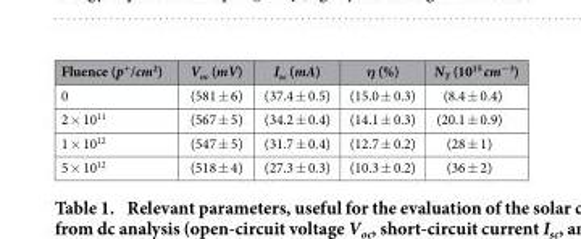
<table><thead><tr><td>Fluence (p<sup>+</sup>/cm<sup>2</sup>)</td><td>V<sub>oc</sub> (mV)</td><td>I<sub>sc</sub> (mA)</td><td>η (%)</td><td>N<sub>T</sub> (10<sup>15</sup> cm<sup>−3</sup>)</td></tr></thead><tbody><tr><td>0</td><td>(581 ± 6)</td><td>(37.4 ± 0.5)</td><td>(15.0 ± 0.3)</td><td>(8.4 ± 0.4)</td></tr><tr><td>2 × 10<sup>11</sup></td><td>(567 ± 5)</td><td>(34.2 ± 0.4)</td><td>(14.1 ± 0.3)</td><td>(20.1 ± 0.9)</td></tr><tr><td>1 × 10<sup>12</sup></td><td>(547 ± 5)</td><td>(31.7 ± 0.4)</td><td>(12.7 ± 0.2)</td><td>(28 ± 1)</td></tr><tr><td>5 × 10<sup>12</sup></td><td>(518 ± 4)</td><td>(27.3 ± 0.3)</td><td>(10.3 ± 0.2)</td><td>(36 ± 2)</td></tr></tbody></table>